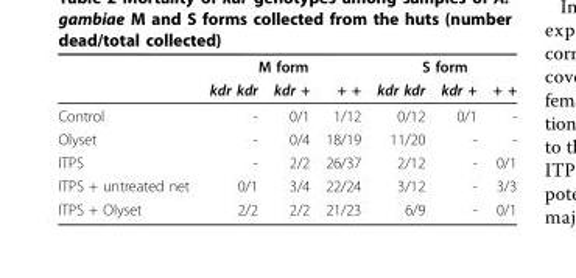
<table><thead><tr><td rowspan="2"></td><td colspan="3">M form</td><td colspan="3">S form</td></tr><tr><td>kdr kdr</td><td>kdr +</td><td>+ +</td><td>kdr kdr</td><td>kdr +</td><td>+ +</td></tr></thead><tbody><tr><td>Control</td><td>-</td><td>0/1</td><td>1/12</td><td>0/12</td><td>0/1</td><td>-</td></tr><tr><td>Olyset</td><td>-</td><td>0/4</td><td>18/19</td><td>11/20</td><td>-</td><td>-</td></tr><tr><td>ITPS</td><td>-</td><td>2/2</td><td>26/37</td><td>2/12</td><td>-</td><td>0/1</td></tr><tr><td>ITPS + untreated net</td><td>0/1</td><td>3/4</td><td>22/24</td><td>3/12</td><td>-</td><td>3/3</td></tr><tr><td>ITPS + Olyset</td><td>2/2</td><td>2/2</td><td>21/23</td><td>6/9</td><td>-</td><td>0/1</td></tr></tbody></table>